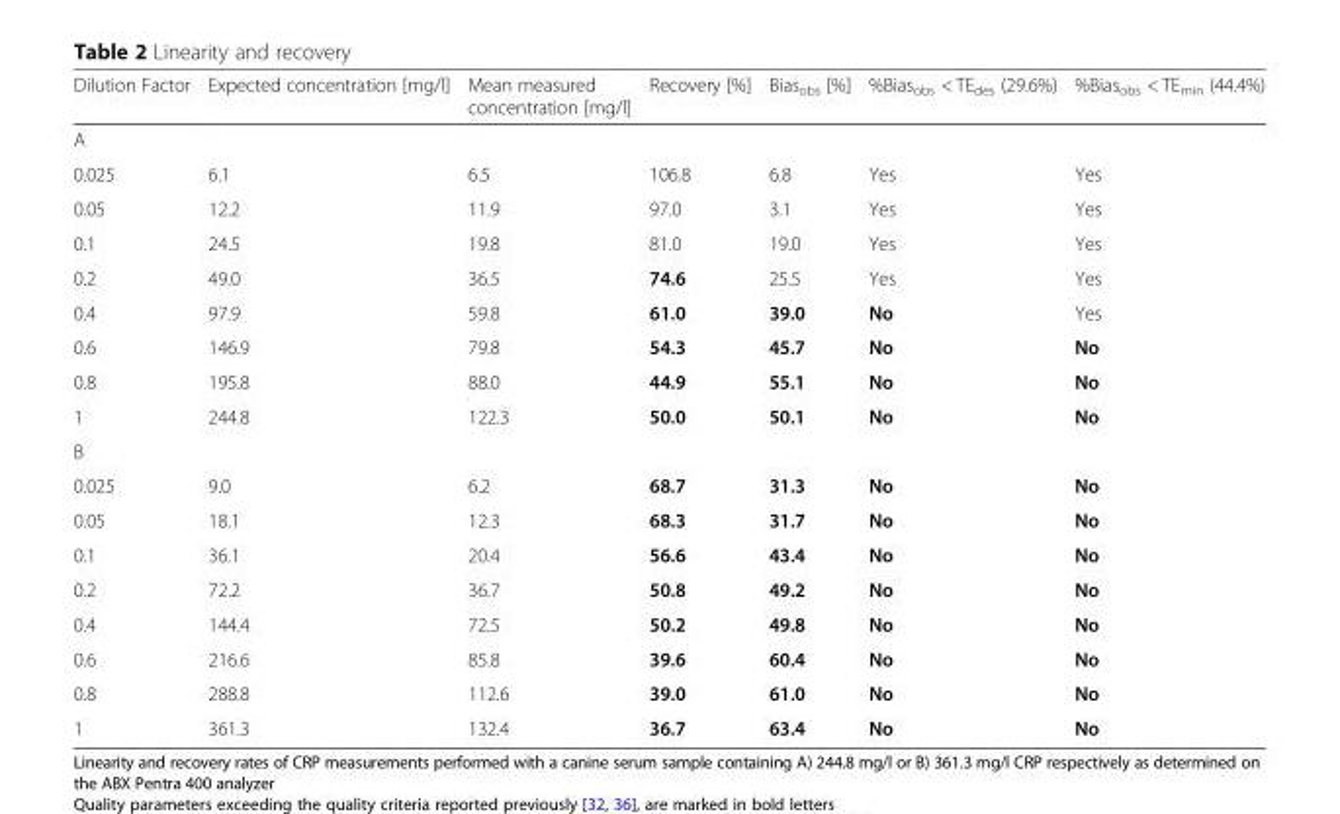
<table><thead><tr><td>Dilution Factor</td><td>Expected concentration [mg/l]</td><td>Mean measured concentration [mg/l]</td><td>Recovery [%]</td><td>Bias<sub>obs</sub> [%]</td><td>%Bias<sub>obs</sub> &lt; TE<sub>des</sub> (29.6%)</td><td>%Bias<sub>obs</sub> &lt; TE<sub>min</sub> (44.4%)</td></tr></thead><tbody><tr><td colspan="7">A</td></tr><tr><td>0.025</td><td>6.1</td><td>6.5</td><td>106.8</td><td>6.8</td><td>Yes</td><td>Yes</td></tr><tr><td>0.05</td><td>12.2</td><td>11.9</td><td>97.0</td><td>3.1</td><td>Yes</td><td>Yes</td></tr><tr><td>0.1</td><td>24.5</td><td>19.8</td><td>81.0</td><td>19.0</td><td>Yes</td><td>Yes</td></tr><tr><td>0.2</td><td>49.0</td><td>36.5</td><td>74.6</td><td>25.5</td><td>Yes</td><td>Yes</td></tr><tr><td>0.4</td><td>97.9</td><td>59.8</td><td>61.0</td><td>39.0</td><td>No</td><td>Yes</td></tr><tr><td>0.6</td><td>146.9</td><td>79.8</td><td>54.3</td><td>45.7</td><td>No</td><td>No</td></tr><tr><td>0.8</td><td>195.8</td><td>88.0</td><td>44.9</td><td>55.1</td><td>No</td><td>No</td></tr><tr><td>1</td><td>244.8</td><td>122.3</td><td>50.0</td><td>50.1</td><td>No</td><td>No</td></tr><tr><td colspan="7">B</td></tr><tr><td>0.025</td><td>9.0</td><td>6.2</td><td>68.7</td><td>31.3</td><td>No</td><td>No</td></tr><tr><td>0.05</td><td>18.1</td><td>12.3</td><td>68.3</td><td>31.7</td><td>No</td><td>No</td></tr><tr><td>0.1</td><td>36.1</td><td>20.4</td><td>56.6</td><td>43.4</td><td>No</td><td>No</td></tr><tr><td>0.2</td><td>72.2</td><td>36.7</td><td>50.8</td><td>49.2</td><td>No</td><td>No</td></tr><tr><td>0.4</td><td>144.4</td><td>72.5</td><td>50.2</td><td>49.8</td><td>No</td><td>No</td></tr><tr><td>0.6</td><td>216.6</td><td>85.8</td><td>39.6</td><td>60.4</td><td>No</td><td>No</td></tr><tr><td>0.8</td><td>288.8</td><td>112.6</td><td>39.0</td><td>61.0</td><td>No</td><td>No</td></tr><tr><td>1</td><td>361.3</td><td>132.4</td><td>36.7</td><td>63.4</td><td>No</td><td>No</td></tr></tbody></table>